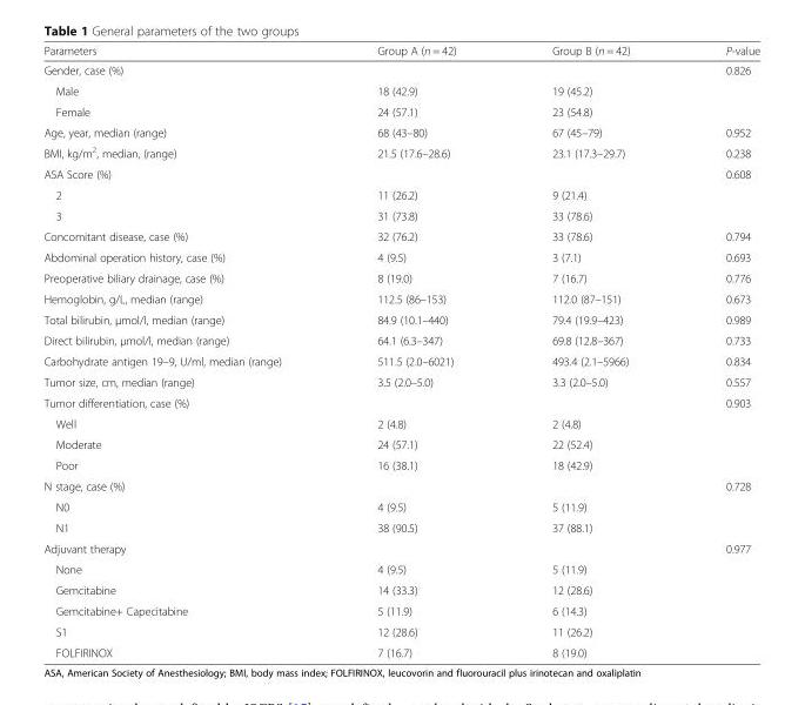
<table><thead><tr><td>Parameters</td><td>Group A (n = 42)</td><td>Group B (n = 42)</td><td>P-value</td></tr></thead><tbody><tr><td>Gender, case (%)</td><td></td><td></td><td>0.826</td></tr><tr><td>Male</td><td>18 (42.9)</td><td>19 (45.2)</td><td></td></tr><tr><td>Female</td><td>24 (57.1)</td><td>23 (54.8)</td><td></td></tr><tr><td>Age, year, median (range)</td><td>68 (43–80)</td><td>67 (45–79)</td><td>0.952</td></tr><tr><td>BMI, kg/m<sup>2</sup>, median, (range)</td><td>21.5 (17.6–28.6)</td><td>23.1 (17.3–29.7)</td><td>0.238</td></tr><tr><td>ASA Score (%)</td><td></td><td></td><td>0.608</td></tr><tr><td>2</td><td>11 (26.2)</td><td>9 (21.4)</td><td></td></tr><tr><td>3</td><td>31 (73.8)</td><td>33 (78.6)</td><td></td></tr><tr><td>Concomitant disease, case (%)</td><td>32 (76.2)</td><td>33 (78.6)</td><td>0.794</td></tr><tr><td>Abdominal operation history, case (%)</td><td>4 (9.5)</td><td>3 (7.1)</td><td>0.693</td></tr><tr><td>Preoperative biliary drainage, case (%)</td><td>8 (19.0)</td><td>7 (16.7)</td><td>0.776</td></tr><tr><td>Hemoglobin, g/L, median (range)</td><td>112.5 (86–153)</td><td>112.0 (87–151)</td><td>0.673</td></tr><tr><td>Total bilirubin, μmol/l, median (range)</td><td>84.9 (10.1–440)</td><td>79.4 (19.9–423)</td><td>0.989</td></tr><tr><td>Direct bilirubin, μmol/l, median (range)</td><td>64.1 (6.3–347)</td><td>69.8 (12.8–367)</td><td>0.733</td></tr><tr><td>Carbohydrate antigen 19–9, U/ml, median (range)</td><td>511.5 (2.0–6021)</td><td>493.4 (2.1–5966)</td><td>0.834</td></tr><tr><td>Tumor size, cm, median (range)</td><td>3.5 (2.0–5.0)</td><td>3.3 (2.0–5.0)</td><td>0.557</td></tr><tr><td>Tumor differentiation, case (%)</td><td></td><td></td><td>0.903</td></tr><tr><td>Well</td><td>2 (4.8)</td><td>2 (4.8)</td><td></td></tr><tr><td>Moderate</td><td>24 (57.1)</td><td>22 (52.4)</td><td></td></tr><tr><td>Poor</td><td>16 (38.1)</td><td>18 (42.9)</td><td></td></tr><tr><td>N stage, case (%)</td><td></td><td></td><td>0.728</td></tr><tr><td>N0</td><td>4 (9.5)</td><td>5 (11.9)</td><td></td></tr><tr><td>N1</td><td>38 (90.5)</td><td>37 (88.1)</td><td></td></tr><tr><td>Adjuvant therapy</td><td></td><td></td><td>0.977</td></tr><tr><td>None</td><td>4 (9.5)</td><td>5 (11.9)</td><td></td></tr><tr><td>Gemcitabine</td><td>14 (33.3)</td><td>12 (28.6)</td><td></td></tr><tr><td>Gemcitabine+ Capecitabine</td><td>5 (11.9)</td><td>6 (14.3)</td><td></td></tr><tr><td>S1</td><td>12 (28.6)</td><td>11 (26.2)</td><td></td></tr><tr><td>FOLFIRINOX</td><td>7 (16.7)</td><td>8 (19.0)</td><td></td></tr></tbody></table>